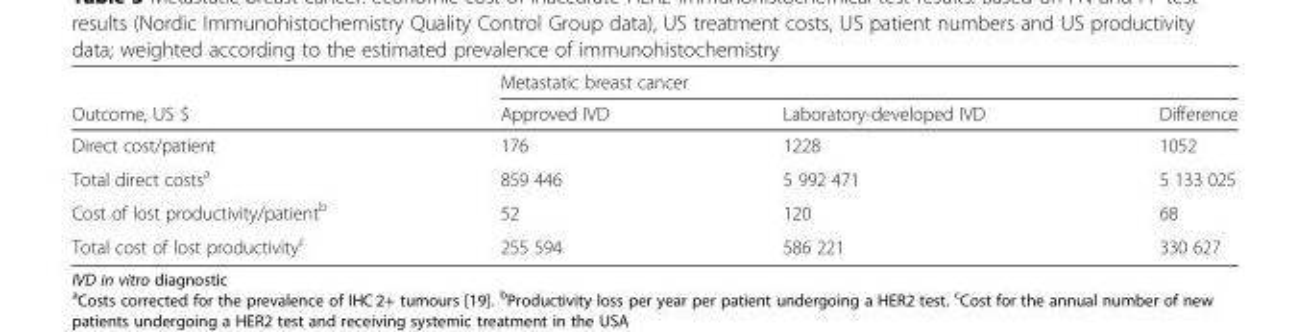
<table><thead><tr><td rowspan="2">Outcome, US $</td><td colspan="3">Metastatic breast cancer</td></tr><tr><td>Approved IVD</td><td>Laboratory-developed IVD</td><td>Difference</td></tr></thead><tbody><tr><td>Direct cost/patient</td><td>176</td><td>1228</td><td>1052</td></tr><tr><td>Total direct costs<sup>a</sup></td><td>859 446</td><td>5 992 471</td><td>5 133 025</td></tr><tr><td>Cost of lost productivity/patient<sup>b</sup></td><td>52</td><td>120</td><td>68</td></tr><tr><td>Total cost of lost productivity<sup>c</sup></td><td>255 594</td><td>586 221</td><td>330 627</td></tr></tbody></table>